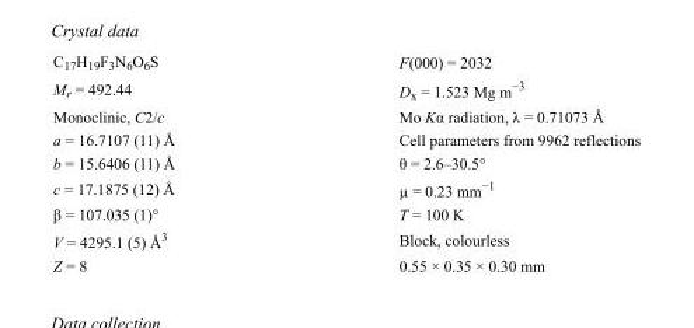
<table><tbody><tr><td>C<sub>17</sub>H<sub>19</sub>F<sub>3</sub>N<sub>6</sub>O<sub>6</sub>S</td><td>F(000) = 2032</td></tr><tr><td>M<sub>r</sub> = 492.44</td><td>D<sub>x</sub> = 1.523 Mg m<sup>−3</sup></td></tr><tr><td>Monoclinic, C2/c</td><td>Mo Kα radiation, λ = 0.71073 Å</td></tr><tr><td>a = 16.7107 (11) Å</td><td>Cell parameters from 9962 reflections</td></tr><tr><td>b = 15.6406 (11) Å</td><td>θ = 2.6–30.5°</td></tr><tr><td>c = 17.1875 (12) Å</td><td>µ = 0.23 mm<sup>−1</sup></td></tr><tr><td>β = 107.035 (1)°</td><td>T = 100 K</td></tr><tr><td>V = 4295.1 (5) Å<sup>3</sup></td><td>Block, colourless</td></tr><tr><td>Z = 8</td><td>0.55 × 0.35 × 0.30 mm</td></tr></tbody></table>